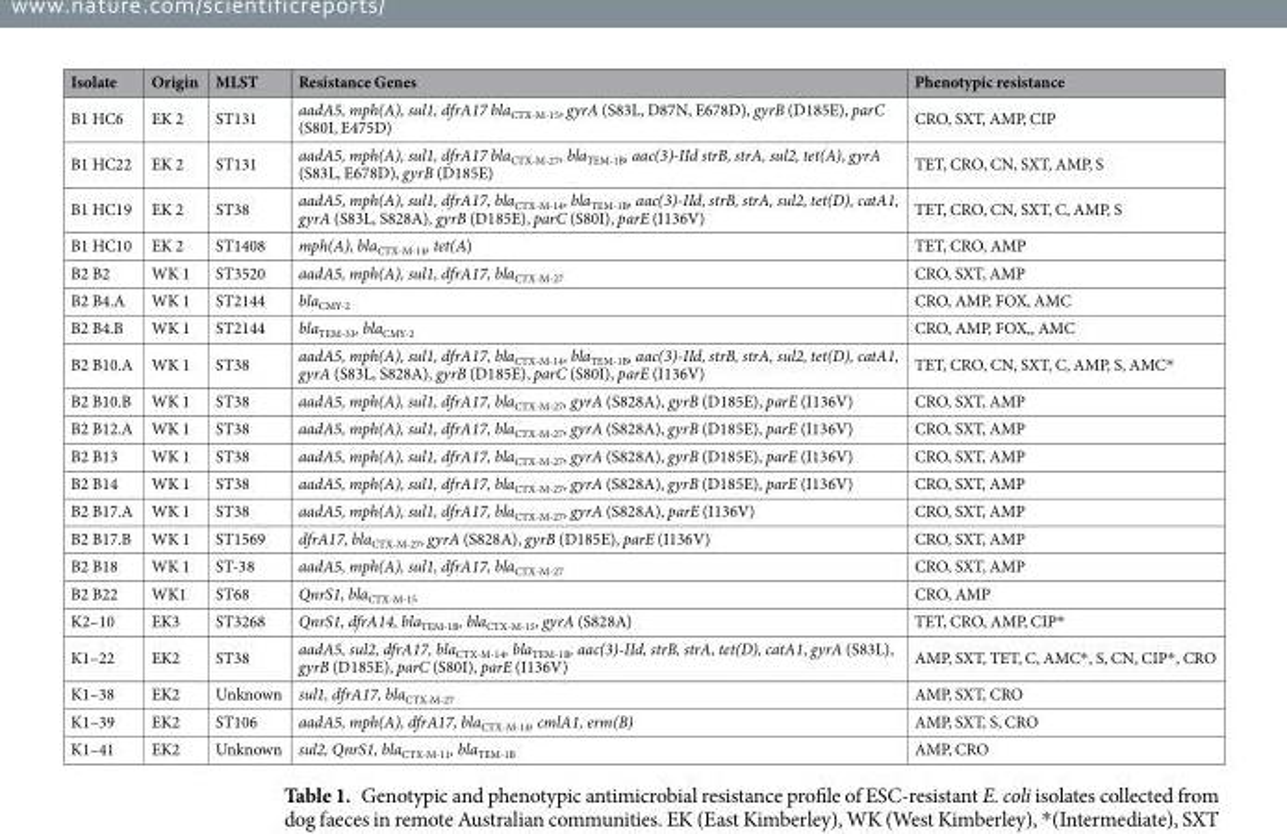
<table><thead><tr><td>Isolate</td><td>Origin</td><td>MLST</td><td>Resistance Genes</td><td>Phenotypic resistance</td></tr></thead><tbody><tr><td>B1 HC6</td><td>EK 2</td><td>ST131</td><td>aadA5, mph(A), sul1, dfrA17 bla<sub>CTX-M-15</sub>, gyrA (S83L, D87N, E678D), gyrB (D185E), parC (S80I, E475D)</td><td>CRO, SXT, AMP, CIP</td></tr><tr><td>B1 HC22</td><td>EK 2</td><td>ST131</td><td>aadA5, mph(A), sul1, dfrA17 bla<sub>CTX-M-27</sub>, bla<sub>TEM-1B</sub>, aac(3)-IId strB, strA, sul2, tet(A), gyrA (S83L, E678D), gyrB (D185E)</td><td>TET, CRO, CN, SXT, AMP, S</td></tr><tr><td>B1 HC19</td><td>EK 2</td><td>ST38</td><td>aadA5, mph(A), sul1, dfrA17, bla<sub>CTX-M-14</sub>, bla<sub>TEM-1B</sub>, aac(3)-IId, strB, strA, sul2, tet(D), catA1, gyrA (S83L, S828A), gyrB (D185E), parC (S80I), parE (I136V)</td><td>TET, CRO, CN, SXT, C, AMP, S</td></tr><tr><td>B1 HC10</td><td>EK 2</td><td>ST1408</td><td>mph(A), bla<sub>CTX-M-14</sub>, tet(A)</td><td>TET, CRO, AMP</td></tr><tr><td>B2 B2</td><td>WK 1</td><td>ST3520</td><td>aadA5, mph(A), sul1, dfrA17, bla<sub>CTX-M-27</sub></td><td>CRO, SXT, AMP</td></tr><tr><td>B2 B4.A</td><td>WK 1</td><td>ST2144</td><td>bla<sub>CMY-2</sub></td><td>CRO, AMP, FOX, AMC</td></tr><tr><td>B2 B4.B</td><td>WK 1</td><td>ST2144</td><td>bla<sub>TEM-33</sub>, bla<sub>CMY-2</sub></td><td>CRO, AMP, FOX,, AMC</td></tr><tr><td>B2 B10.A</td><td>WK 1</td><td>ST38</td><td>aadA5, mph(A), sul1, dfrA17, bla<sub>CTX-M-14</sub>, bla<sub>TEM-1B</sub>, aac(3)-IId, strB, strA, sul2, tet(D), catA1, gyrA (S83L, S828A), gyrB (D185E), parC (S80I), parE (I136V)</td><td>TET, CRO, CN, SXT, C, AMP, S, AMC*</td></tr><tr><td>B2 B10.B</td><td>WK 1</td><td>ST38</td><td>aadA5, mph(A), sul1, dfrA17, bla<sub>CTX-M-27</sub>, gyrA (S828A), gyrB (D185E), parE (I136V)</td><td>CRO, SXT, AMP</td></tr><tr><td>B2 B12.A</td><td>WK 1</td><td>ST38</td><td>aadA5, mph(A), sul1, dfrA17, bla<sub>CTX-M-27</sub>, gyrA (S828A), gyrB (D185E), parE (I136V)</td><td>CRO, SXT, AMP</td></tr><tr><td>B2 B13</td><td>WK 1</td><td>ST38</td><td>aadA5, mph(A), sul1, dfrA17, bla<sub>CTX-M-27</sub>, gyrA (S828A), gyrB (D185E), parE (I136V)</td><td>CRO, SXT, AMP</td></tr><tr><td>B2 B14</td><td>WK 1</td><td>ST38</td><td>aadA5, mph(A), sul1, dfrA17, bla<sub>CTX-M-27</sub>, gyrA (S828A), gyrB (D185E), parE (I136V)</td><td>CRO, SXT, AMP</td></tr><tr><td>B2 B17.A</td><td>WK 1</td><td>ST38</td><td>aadA5, mph(A), sul1, dfrA17, bla<sub>CTX-M-27</sub>, gyrA (S828A), parE (I136V)</td><td>CRO, SXT, AMP</td></tr><tr><td>B2 B17.B</td><td>WK 1</td><td>ST1569</td><td>dfrA17, bla<sub>CTX-M-27</sub>, gyrA (S828A), gyrB (D185E), parE (I136V)</td><td>CRO, SXT, AMP</td></tr><tr><td>B2 B18</td><td>WK 1</td><td>ST-38</td><td>aadA5, mph(A), sul1, dfrA17, bla<sub>CTX-M-27</sub></td><td>CRO, SXT, AMP</td></tr><tr><td>B2 B22</td><td>WK1</td><td>ST68</td><td>QnrS1, bla<sub>CTX-M-15</sub></td><td>CRO, AMP</td></tr><tr><td>K2–10</td><td>EK3</td><td>ST3268</td><td>QnrS1, dfrA14, bla<sub>TEM-1B</sub>, bla<sub>CTX-M-15</sub>, gyrA (S828A)</td><td>TET, CRO, AMP, CIP*</td></tr><tr><td>K1–22</td><td>EK2</td><td>ST38</td><td>aadA5, sul2, dfrA17, bla<sub>CTX-M-14</sub>, bla<sub>TEM-1B</sub>, aac(3)-IId, strB, strA, tet(D), catA1, gyrA (S83L), gyrB (D185E), parC (S80I), parE (I136V)</td><td>AMP, SXT, TET, C, AMC*, S, CN, CIP*, CRO</td></tr><tr><td>K1–38</td><td>EK2</td><td>Unknown</td><td>sul1, dfrA17, bla<sub>CTX-M-27</sub></td><td>AMP, SXT, CRO</td></tr><tr><td>K1–39</td><td>EK2</td><td>ST106</td><td>aadA5, mph(A), dfrA17, bla<sub>CTX-M-14</sub>, cmlA1, erm(B)</td><td>AMP, SXT, S, CRO</td></tr><tr><td>K1–41</td><td>EK2</td><td>Unknown</td><td>sul2, QnrS1, bla<sub>CTX-M-11</sub>, bla<sub>TEM-1B</sub></td><td>AMP, CRO</td></tr></tbody></table>